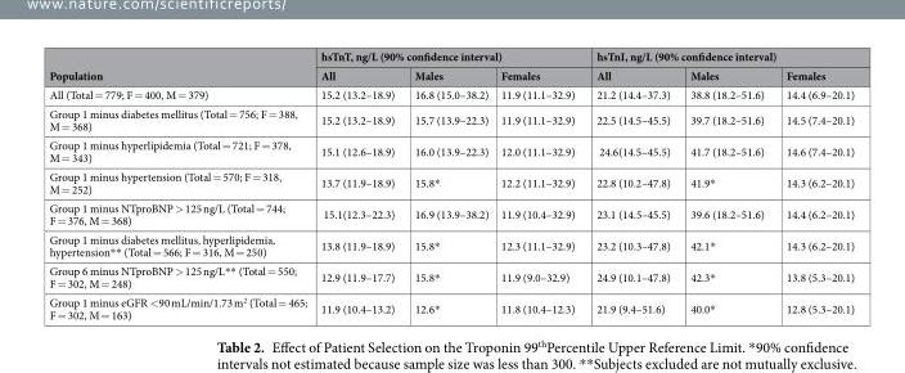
<table><thead><tr><td rowspan="2">Population</td><td colspan="3">hsTnT, ng/L (90% confidence interval)</td><td colspan="3">hsTnI, ng/L (90% confidence interval)</td></tr><tr><td>All</td><td>Males</td><td>Females</td><td>All</td><td>Males</td><td>Females</td></tr></thead><tbody><tr><td>All (Total = 779; F = 400, M = 379)</td><td>15.2 (13.2–18.9)</td><td>16.8 (15.0–38.2)</td><td>11.9 (11.1–32.9)</td><td>21.2 (14.4–37.3)</td><td>38.8 (18.2–51.6)</td><td>14.4 (6.9–20.1)</td></tr><tr><td>Group 1 minus diabetes mellitus (Total = 756; F = 388, M = 368)</td><td>15.2 (13.2–18.9)</td><td>15.7 (13.9–22.3)</td><td>11.9 (11.1–32.9)</td><td>22.5 (14.5–45.5)</td><td>39.7 (18.2–51.6)</td><td>14.5 (7.4–20.1)</td></tr><tr><td>Group 1 minus hyperlipidemia (Total = 721; F = 378, M = 343)</td><td>15.1 (12.6–18.9)</td><td>16.0 (13.9–22.3)</td><td>12.0 (11.1–32.9)</td><td>24.6(14.5–45.5)</td><td>41.7 (18.2–51.6)</td><td>14.6 (7.4–20.1)</td></tr><tr><td>Group 1 minus hypertension (Total = 570; F = 318, M = 252)</td><td>13.7 (11.9–18.9)</td><td>15.8*</td><td>12.2 (11.1–32.9)</td><td>22.8 (10.2–47.8)</td><td>41.9*</td><td>14.3 (6.2–20.1)</td></tr><tr><td>Group 1 minus NTproBNP &gt; 125 ng/L (Total = 744; F = 376, M = 368)</td><td>15.1(12.3–22.3)</td><td>16.9 (13.9–38.2)</td><td>11.9 (10.4–32.9)</td><td>23.1 (14.5–45.5)</td><td>39.6 (18.2–51.6)</td><td>14.4 (6.2–20.1)</td></tr><tr><td>Group 1 minus diabetes mellitus, hyperlipidemia, hypertension** (Total = 566; F = 316, M = 250)</td><td>13.8 (11.9–18.9)</td><td>15.8*</td><td>12.3 (11.1–32.9)</td><td>23.2 (10.3–47.8)</td><td>42.1*</td><td>14.3 (6.2–20.1)</td></tr><tr><td>Group 6 minus NTproBNP &gt; 125 ng/L** (Total = 550; F = 302, M = 248)</td><td>12.9 (11.9–17.7)</td><td>15.8*</td><td>11.9 (9.0–32.9)</td><td>24.9 (10.1–47.8)</td><td>42.3*</td><td>13.8 (5.3–20.1)</td></tr><tr><td>Group 1 minus eGFR &lt;90 mL/min/1.73 m<sup>2</sup> (Total = 465; F = 302, M = 163)</td><td>11.9 (10.4–13.2)</td><td>12.6*</td><td>11.8 (10.4–12.3)</td><td>21.9 (9.4–51.6)</td><td>40.0*</td><td>12.8 (5.3–20.1)</td></tr></tbody></table>